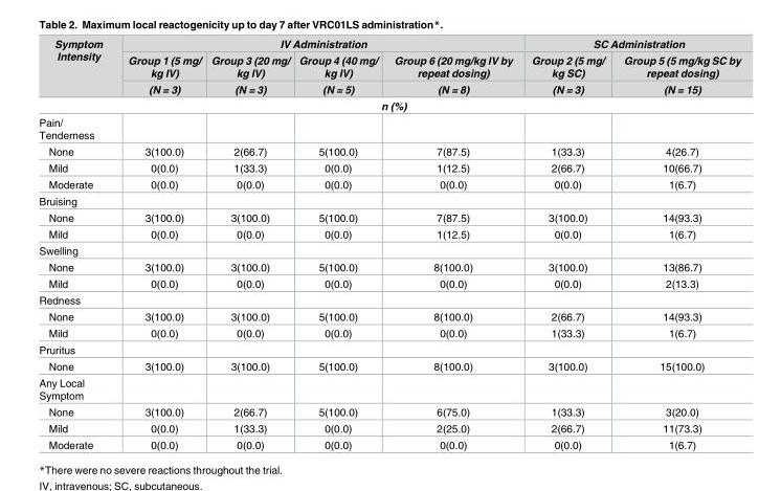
<table><thead><tr><td rowspan="3">Symptom Intensity</td><td colspan="4">IV Administration</td><td colspan="2">SC Administration</td></tr><tr><td rowspan="2">Group 1 (5 mg/ kg IV) (N = 3)</td><td rowspan="2">Group 3 (20 mg/ kg IV) (N = 3)</td><td rowspan="2">Group 4 (40 mg/ kg IV) (N = 5)</td><td rowspan="2">Group 6 (20 mg/kg IV by repeat dosing) (N = 8)</td><td rowspan="2">Group 2 (5 mg/ kg SC) (N = 3)</td><td rowspan="2">Group 5 (5 mg/kg SC by repeat dosing) (N = 15)</td></tr><tr></tr><tr><td colspan="7">n (%)</td></tr></thead><tbody><tr><td colspan="7">Pain/ Tenderness</td></tr><tr><td>None</td><td>3(100.0)</td><td>2(66.7)</td><td>5(100.0)</td><td>7(87.5)</td><td>1(33.3)</td><td>4(26.7)</td></tr><tr><td>Mild</td><td>0(0.0)</td><td>1(33.3)</td><td>0(0.0)</td><td>1(12.5)</td><td>2(66.7)</td><td>10(66.7)</td></tr><tr><td>Moderate</td><td>0(0.0)</td><td>0(0.0)</td><td>0(0.0)</td><td>0(0.0)</td><td>0(0.0)</td><td>1(6.7)</td></tr><tr><td colspan="7">Bruising</td></tr><tr><td>None</td><td>3(100.0)</td><td>3(100.0)</td><td>5(100.0)</td><td>7(87.5)</td><td>3(100.0)</td><td>14(93.3)</td></tr><tr><td>Mild</td><td>0(0.0)</td><td>0(0.0)</td><td>0(0.0)</td><td>1(12.5)</td><td>0(0.0)</td><td>1(6.7)</td></tr><tr><td colspan="7">Swelling</td></tr><tr><td>None</td><td>3(100.0)</td><td>3(100.0)</td><td>5(100.0)</td><td>8(100.0)</td><td>3(100.0)</td><td>13(86.7)</td></tr><tr><td>Mild</td><td>0(0.0)</td><td>0(0.0)</td><td>0(0.0)</td><td>0(0.0)</td><td>0(0.0)</td><td>2(13.3)</td></tr><tr><td colspan="7">Redness</td></tr><tr><td>None</td><td>3(100.0)</td><td>3(100.0)</td><td>5(100.0)</td><td>8(100.0)</td><td>2(66.7)</td><td>14(93.3)</td></tr><tr><td>Mild</td><td>0(0.0)</td><td>0(0.0)</td><td>0(0.0)</td><td>0(0.0)</td><td>1(33.3)</td><td>1(6.7)</td></tr><tr><td colspan="7">Pruritus</td></tr><tr><td>None</td><td>3(100.0)</td><td>3(100.0)</td><td>5(100.0)</td><td>8(100.0)</td><td>3(100.0)</td><td>15(100.0)</td></tr><tr><td colspan="7">Any Local Symptom</td></tr><tr><td>None</td><td>3(100.0)</td><td>2(66.7)</td><td>5(100.0)</td><td>6(75.0)</td><td>1(33.3)</td><td>3(20.0)</td></tr><tr><td>Mild</td><td>0(0.0)</td><td>1(33.3)</td><td>0(0.0)</td><td>2(25.0)</td><td>2(66.7)</td><td>11(73.3)</td></tr><tr><td>Moderate</td><td>0(0.0)</td><td>0(0.0)</td><td>0(0.0)</td><td>0(0.0)</td><td>0(0.0)</td><td>1(6.7)</td></tr></tbody></table>